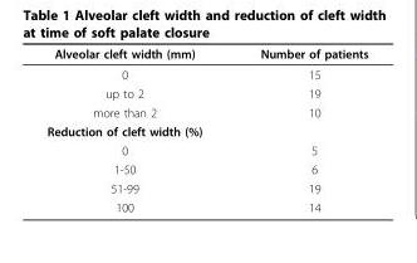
<table><tbody><tr><td>Alveolar cleft width (mm)</td><td>Number of patients</td></tr><tr><td>0</td><td>15</td></tr><tr><td>up to 2</td><td>19</td></tr><tr><td>more than 2</td><td>10</td></tr><tr><td colspan="2">Reduction of cleft width (%)</td></tr><tr><td>0</td><td>5</td></tr><tr><td>1-50</td><td>6</td></tr><tr><td>51-99</td><td>19</td></tr><tr><td>100</td><td>14</td></tr></tbody></table>